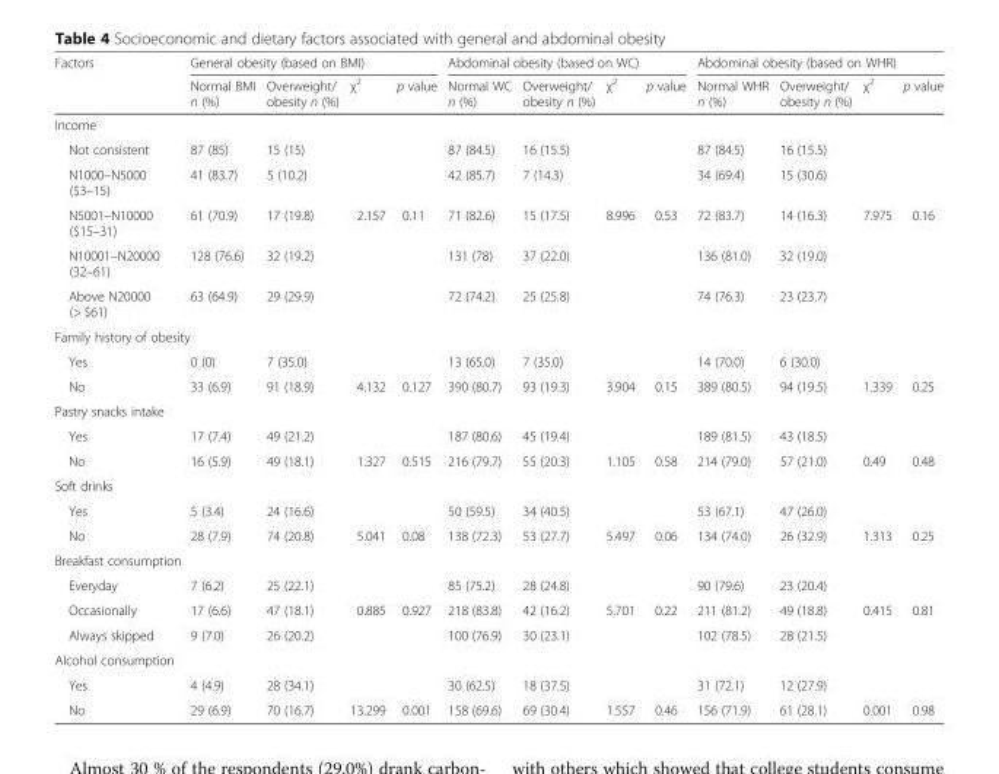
<table><thead><tr><td rowspan="2">Factors</td><td colspan="4">General obesity (based on BMI)</td><td colspan="4">Abdominal obesity (based on WC)</td><td colspan="4">Abdominal obesity (based on WHR)</td></tr><tr><td>Normal BMI n (%)</td><td>Overweight/ obesity n (%)</td><td>χ<sup>2</sup></td><td>p value</td><td>Normal WC n (%)</td><td>Overweight/ obesity n (%)</td><td>χ<sup>2</sup></td><td>p value</td><td>Normal WHR n (%)</td><td>Overweight/ obesity n (%)</td><td>χ<sup>2</sup></td><td>p value</td></tr></thead><tbody><tr><td colspan="13">Income</td></tr><tr><td>Not consistent</td><td>87 (85)</td><td>15 (15)</td><td></td><td></td><td>87 (84.5)</td><td>16 (15.5)</td><td></td><td></td><td>87 (84.5)</td><td>16 (15.5)</td><td></td><td></td></tr><tr><td>N1000–N5000 ($3–15)</td><td>41 (83.7)</td><td>5 (10.2)</td><td></td><td></td><td>42 (85.7)</td><td>7 (14.3)</td><td></td><td></td><td>34 (69.4)</td><td>15 (30.6)</td><td></td><td></td></tr><tr><td>N5001–N10000 ($15–31)</td><td>61 (70.9)</td><td>17 (19.8)</td><td>2.157</td><td>0.11</td><td>71 (82.6)</td><td>15 (17.5)</td><td>8.996</td><td>0.53</td><td>72 (83.7)</td><td>14 (16.3)</td><td>7.975</td><td>0.16</td></tr><tr><td>N10001–N20000 (32–61)</td><td>128 (76.6)</td><td>32 (19.2)</td><td></td><td></td><td>131 (78)</td><td>37 (22.0)</td><td></td><td></td><td>136 (81.0)</td><td>32 (19.0)</td><td></td><td></td></tr><tr><td>Above N20000 (&gt; $61)</td><td>63 (64.9)</td><td>29 (29.9)</td><td></td><td></td><td>72 (74.2)</td><td>25 (25.8)</td><td></td><td></td><td>74 (76.3)</td><td>23 (23.7)</td><td></td><td></td></tr><tr><td colspan="13">Family history of obesity</td></tr><tr><td>Yes</td><td>0 (0)</td><td>7 (35.0)</td><td></td><td></td><td>13 (65.0)</td><td>7 (35.0)</td><td></td><td></td><td>14 (70.0)</td><td>6 (30.0)</td><td></td><td></td></tr><tr><td>No</td><td>33 (6.9)</td><td>91 (18.9)</td><td>4.132</td><td>0.127</td><td>390 (80.7)</td><td>93 (19.3)</td><td>3.904</td><td>0.15</td><td>389 (80.5)</td><td>94 (19.5)</td><td>1.339</td><td>0.25</td></tr><tr><td colspan="13">Pastry snacks intake</td></tr><tr><td>Yes</td><td>17 (7.4)</td><td>49 (21.2)</td><td></td><td></td><td>187 (80.6)</td><td>45 (19.4)</td><td></td><td></td><td>189 (81.5)</td><td>43 (18.5)</td><td></td><td></td></tr><tr><td>No</td><td>16 (5.9)</td><td>49 (18.1)</td><td>1.327</td><td>0.515</td><td>216 (79.7)</td><td>55 (20.3)</td><td>1.105</td><td>0.58</td><td>214 (79.0)</td><td>57 (21.0)</td><td>0.49</td><td>0.48</td></tr><tr><td colspan="13">Soft drinks</td></tr><tr><td>Yes</td><td>5 (3.4)</td><td>24 (16.6)</td><td></td><td></td><td>50 (59.5)</td><td>34 (40.5)</td><td></td><td></td><td>53 (67.1)</td><td>47 (26.0)</td><td></td><td></td></tr><tr><td>No</td><td>28 (7.9)</td><td>74 (20.8)</td><td>5.041</td><td>0.08</td><td>138 (72.3)</td><td>53 (27.7)</td><td>5.497</td><td>0.06</td><td>134 (74.0)</td><td>26 (32.9)</td><td>1.313</td><td>0.25</td></tr><tr><td colspan="13">Breakfast consumption</td></tr><tr><td>Everyday</td><td>7 (6.2)</td><td>25 (22.1)</td><td></td><td></td><td>85 (75.2)</td><td>28 (24.8)</td><td></td><td></td><td>90 (79.6)</td><td>23 (20.4)</td><td></td><td></td></tr><tr><td>Occasionally</td><td>17 (6.6)</td><td>47 (18.1)</td><td>0.885</td><td>0.927</td><td>218 (83.8)</td><td>42 (16.2)</td><td>5.701</td><td>0.22</td><td>211 (81.2)</td><td>49 (18.8)</td><td>0.415</td><td>0.81</td></tr><tr><td>Always skipped</td><td>9 (7.0)</td><td>26 (20.2)</td><td></td><td></td><td>100 (76.9)</td><td>30 (23.1)</td><td></td><td></td><td>102 (78.5)</td><td>28 (21.5)</td><td></td><td></td></tr><tr><td colspan="13">Alcohol consumption</td></tr><tr><td>Yes</td><td>4 (4.9)</td><td>28 (34.1)</td><td></td><td></td><td>30 (62.5)</td><td>18 (37.5)</td><td></td><td></td><td>31 (72.1)</td><td>12 (27.9)</td><td></td><td></td></tr><tr><td>No</td><td>29 (6.9)</td><td>70 (16.7)</td><td>13.299</td><td>0.001</td><td>158 (69.6)</td><td>69 (30.4)</td><td>1.557</td><td>0.46</td><td>156 (71.9)</td><td>61 (28.1)</td><td>0.001</td><td>0.98</td></tr></tbody></table>